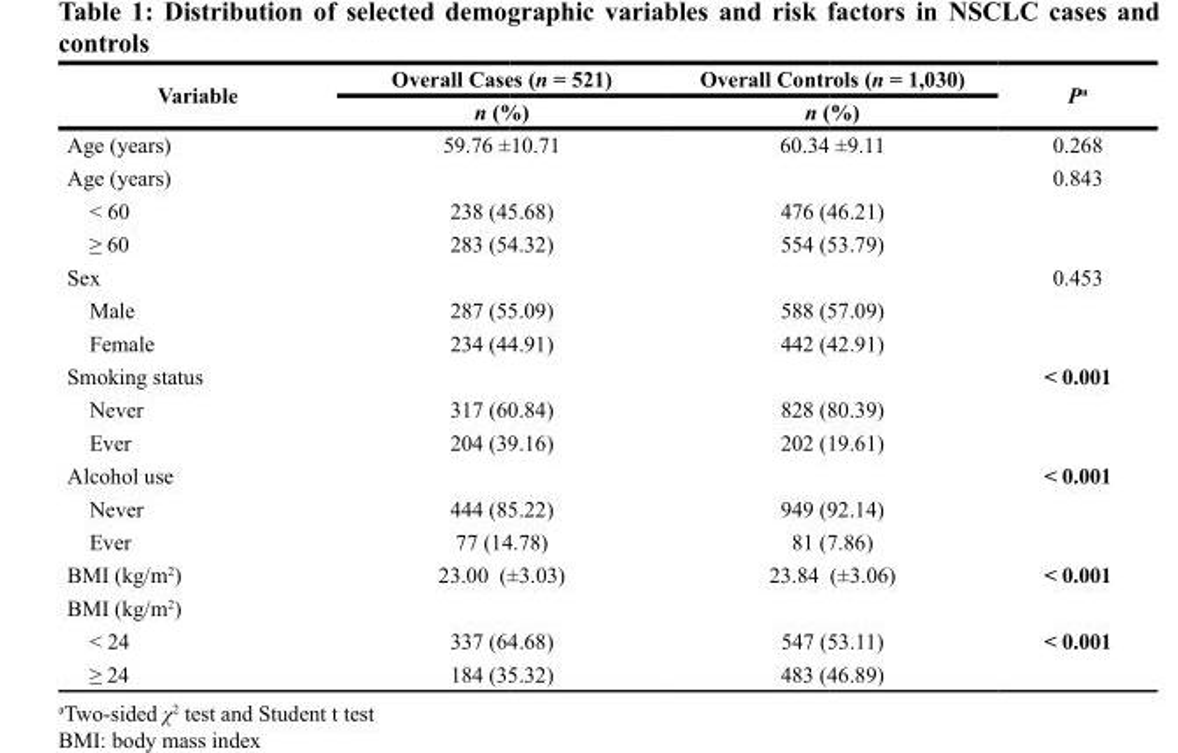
<table><thead><tr><td rowspan="2">Variable</td><td rowspan="2">Overall Cases (n = 521) n (%)</td><td rowspan="2">Overall Controls (n = 1,030) n (%)</td><td rowspan="2">P<sup>a</sup></td></tr><tr></tr></thead><tbody><tr><td>Age (years)</td><td>59.76 ±10.71</td><td>60.34 ±9.11</td><td>0.268</td></tr><tr><td>Age (years)</td><td></td><td></td><td>0.843</td></tr><tr><td>&lt; 60</td><td>238 (45.68)</td><td>476 (46.21)</td><td></td></tr><tr><td>≥ 60</td><td>283 (54.32)</td><td>554 (53.79)</td><td></td></tr><tr><td>Sex</td><td></td><td></td><td>0.453</td></tr><tr><td>Male</td><td>287 (55.09)</td><td>588 (57.09)</td><td></td></tr><tr><td>Female</td><td>234 (44.91)</td><td>442 (42.91)</td><td></td></tr><tr><td>Smoking status</td><td></td><td></td><td>&lt; 0.001</td></tr><tr><td>Never</td><td>317 (60.84)</td><td>828 (80.39)</td><td></td></tr><tr><td>Ever</td><td>204 (39.16)</td><td>202 (19.61)</td><td></td></tr><tr><td>Alcohol use</td><td></td><td></td><td>&lt; 0.001</td></tr><tr><td>Never</td><td>444 (85.22)</td><td>949 (92.14)</td><td></td></tr><tr><td>Ever</td><td>77 (14.78)</td><td>81 (7.86)</td><td></td></tr><tr><td>BMI (kg/m<sup>2</sup>)</td><td>23.00 (±3.03)</td><td>23.84 (±3.06)</td><td>&lt; 0.001</td></tr><tr><td colspan="4">BMI (kg/m<sup>2</sup>)</td></tr><tr><td>&lt; 24</td><td>337 (64.68)</td><td>547 (53.11)</td><td>&lt; 0.001</td></tr><tr><td>≥ 24</td><td>184 (35.32)</td><td>483 (46.89)</td><td></td></tr></tbody></table>